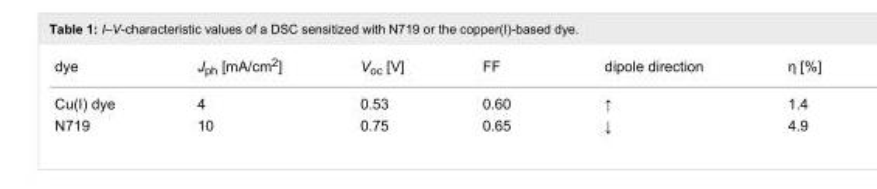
<table><tbody><tr><td>dye</td><td>J<sub>ph</sub> [mA/cm<sup>2</sup>]</td><td>V<sub>oc</sub> [V]</td><td>FF</td><td>dipole direction</td><td>η [%]</td></tr><tr><td>Cu(I) dye</td><td>4</td><td>0.53</td><td>0.60</td><td>↑</td><td>1.4</td></tr><tr><td>N719</td><td>10</td><td>0.75</td><td>0.65</td><td>↓</td><td>4.9</td></tr></tbody></table>